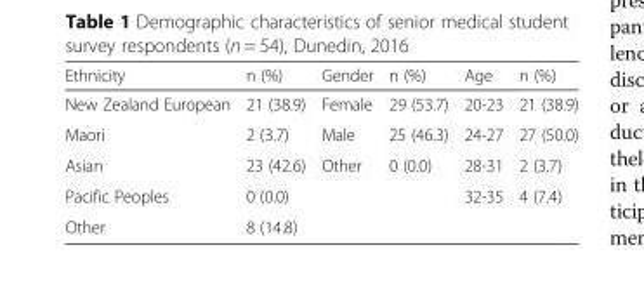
<table><thead><tr><td>Ethnicity</td><td>n (%)</td><td>Gender</td><td>n (%)</td><td>Age</td><td>n (%)</td></tr></thead><tbody><tr><td>New Zealand European</td><td>21 (38.9)</td><td>Female</td><td>29 (53.7)</td><td>20-23</td><td>21 (38.9)</td></tr><tr><td>Maori</td><td>2 (3.7)</td><td>Male</td><td>25 (46.3)</td><td>24-27</td><td>27 (50.0)</td></tr><tr><td>Asian</td><td>23 (42.6)</td><td>Other</td><td>0 (0.0)</td><td>28-31</td><td>2 (3.7)</td></tr><tr><td>Pacific Peoples</td><td>0 (0.0)</td><td></td><td></td><td>32-35</td><td>4 (7.4)</td></tr><tr><td>Other</td><td>8 (14.8)</td><td></td><td></td><td></td><td></td></tr></tbody></table>